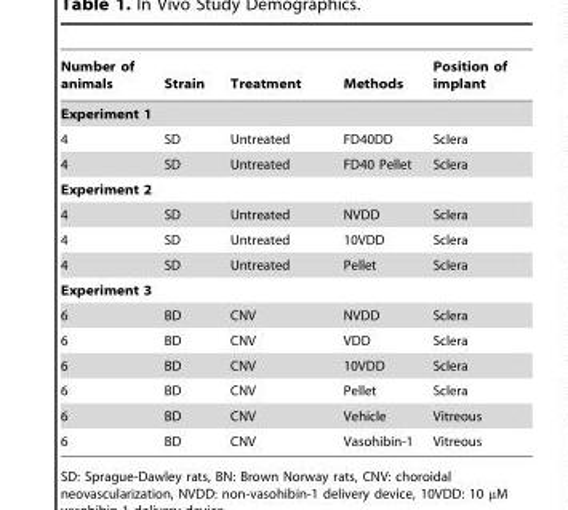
<table><thead><tr><td>Number of animals</td><td>Strain</td><td>Treatment</td><td>Methods</td><td>Position of implant</td></tr></thead><tbody><tr><td colspan="5">Experiment 1</td></tr><tr><td>4</td><td>SD</td><td>Untreated</td><td>FD40DD</td><td>Sclera</td></tr><tr><td>4</td><td>SD</td><td>Untreated</td><td>FD40 Pellet</td><td>Sclera</td></tr><tr><td colspan="5">Experiment 2</td></tr><tr><td>4</td><td>SD</td><td>Untreated</td><td>NVDD</td><td>Sclera</td></tr><tr><td>4</td><td>SD</td><td>Untreated</td><td>10VDD</td><td>Sclera</td></tr><tr><td>4</td><td>SD</td><td>Untreated</td><td>Pellet</td><td>Sclera</td></tr><tr><td colspan="5">Experiment 3</td></tr><tr><td>6</td><td>BD</td><td>CNV</td><td>NVDD</td><td>Sclera</td></tr><tr><td>6</td><td>BD</td><td>CNV</td><td>VDD</td><td>Sclera</td></tr><tr><td>6</td><td>BD</td><td>CNV</td><td>10VDD</td><td>Sclera</td></tr><tr><td>6</td><td>BD</td><td>CNV</td><td>Pellet</td><td>Sclera</td></tr><tr><td>6</td><td>BD</td><td>CNV</td><td>Vehicle</td><td>Vitreous</td></tr><tr><td>6</td><td>BD</td><td>CNV</td><td>Vasohibin-1</td><td>Vitreous</td></tr></tbody></table>